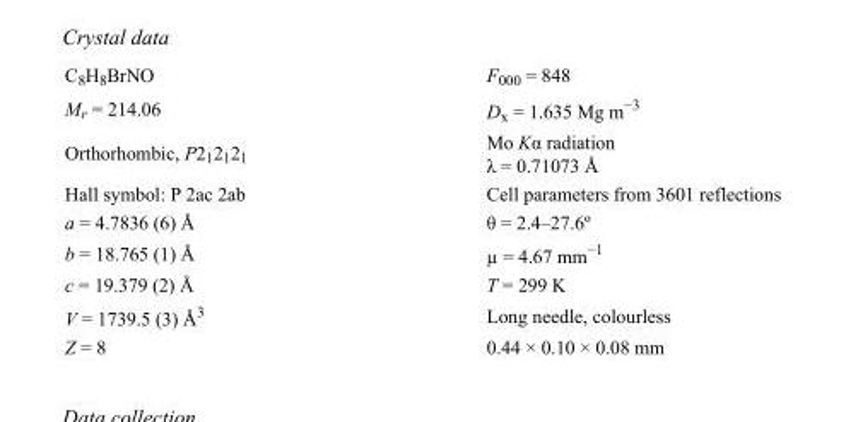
<table><tbody><tr><td>C<sub>8</sub>H<sub>8</sub>BrNO</td><td>F000 = 848</td></tr><tr><td>M<sub>r</sub> = 214.06</td><td>D<sub>x</sub> = 1.635 Mg m<sup>−3</sup></td></tr><tr><td>Orthorhombic, P2<sub>1</sub>2<sub>1</sub>2<sub>1</sub></td><td>Mo Kα radiation λ = 0.71073 Å</td></tr><tr><td>Hall symbol: P 2ac 2ab</td><td>Cell parameters from 3601 reflections</td></tr><tr><td>a = 4.7836 (6) Å</td><td>θ = 2.4–27.6º</td></tr><tr><td>b = 18.765 (1) Å</td><td>µ = 4.67 mm<sup>−1</sup></td></tr><tr><td>c = 19.379 (2) Å</td><td>T = 299 K</td></tr><tr><td>V = 1739.5 (3) Å<sup>3</sup></td><td>Long needle, colourless</td></tr><tr><td>Z = 8</td><td>0.44 × 0.10 × 0.08 mm</td></tr></tbody></table>